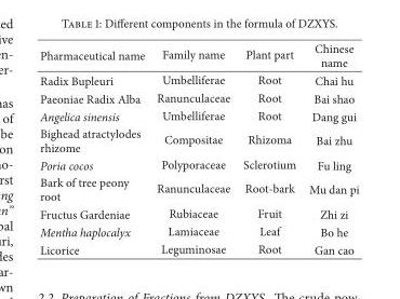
<table><thead><tr><td>Pharmaceutical name</td><td>Family name</td><td>Plant part</td><td>Chinese name</td></tr></thead><tbody><tr><td>Radix Bupleuri</td><td>Umbelliferae</td><td>Root</td><td>Chai hu</td></tr><tr><td>Paeoniae Radix Alba</td><td>Ranunculaceae</td><td>Root</td><td>Bai shao</td></tr><tr><td>Angelica sinensis</td><td>Umbelliferae</td><td>Root</td><td>Dang gui</td></tr><tr><td>Bighead atractylodes rhizome</td><td>Compositae</td><td>Rhizoma</td><td>Bai zhu</td></tr><tr><td>Poria cocos</td><td>Polyporaceae</td><td>Sclerotium</td><td>Fu ling</td></tr><tr><td>Bark of tree peony root</td><td>Ranunculaceae</td><td>Root-bark</td><td>Mu dan pi</td></tr><tr><td>Fructus Gardeniae</td><td>Rubiaceae</td><td>Fruit</td><td>Zhi zi</td></tr><tr><td>Mentha haplocalyx</td><td>Lamiaceae</td><td>Leaf</td><td>Bo he</td></tr><tr><td>Licorice</td><td>Leguminosae</td><td>Root</td><td>Gan cao</td></tr></tbody></table>